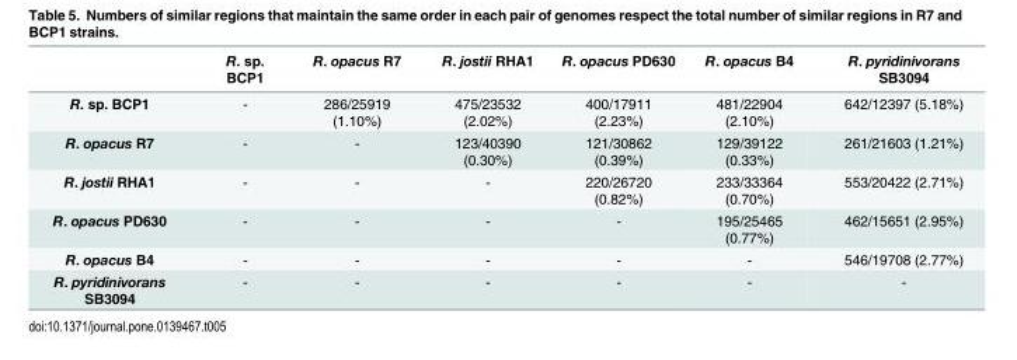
<table><thead><tr><td></td><td>R. sp. BCP1</td><td>R. opacus R7</td><td>R. jostii RHA1</td><td>R. opacus PD630</td><td>R. opacus B4</td><td>R. pyridinivorans SB3094</td></tr></thead><tbody><tr><td>R. sp. BCP1</td><td>-</td><td>286/25919 (1.10%)</td><td>475/23532 (2.02%)</td><td>400/17911 (2.23%)</td><td>481/22904 (2.10%)</td><td>642/12397 (5.18%)</td></tr><tr><td>R. opacus R7</td><td>-</td><td>-</td><td>123/40390 (0.30%)</td><td>121/30862 (0.39%)</td><td>129/39122 (0.33%)</td><td>261/21603 (1.21%)</td></tr><tr><td>R. jostii RHA1</td><td>-</td><td>-</td><td>-</td><td>220/26720 (0.82%)</td><td>233/33364 (0.70%)</td><td>553/20422 (2.71%)</td></tr><tr><td>R. opacus PD630</td><td>-</td><td>-</td><td>-</td><td>-</td><td>195/25465 (0.77%)</td><td>462/15651 (2.95%)</td></tr><tr><td>R. opacus B4</td><td>-</td><td>-</td><td>-</td><td>-</td><td>-</td><td>546/19708 (2.77%)</td></tr><tr><td>R. pyridinivorans SB3094</td><td>-</td><td>-</td><td>-</td><td>-</td><td>-</td><td>-</td></tr></tbody></table>